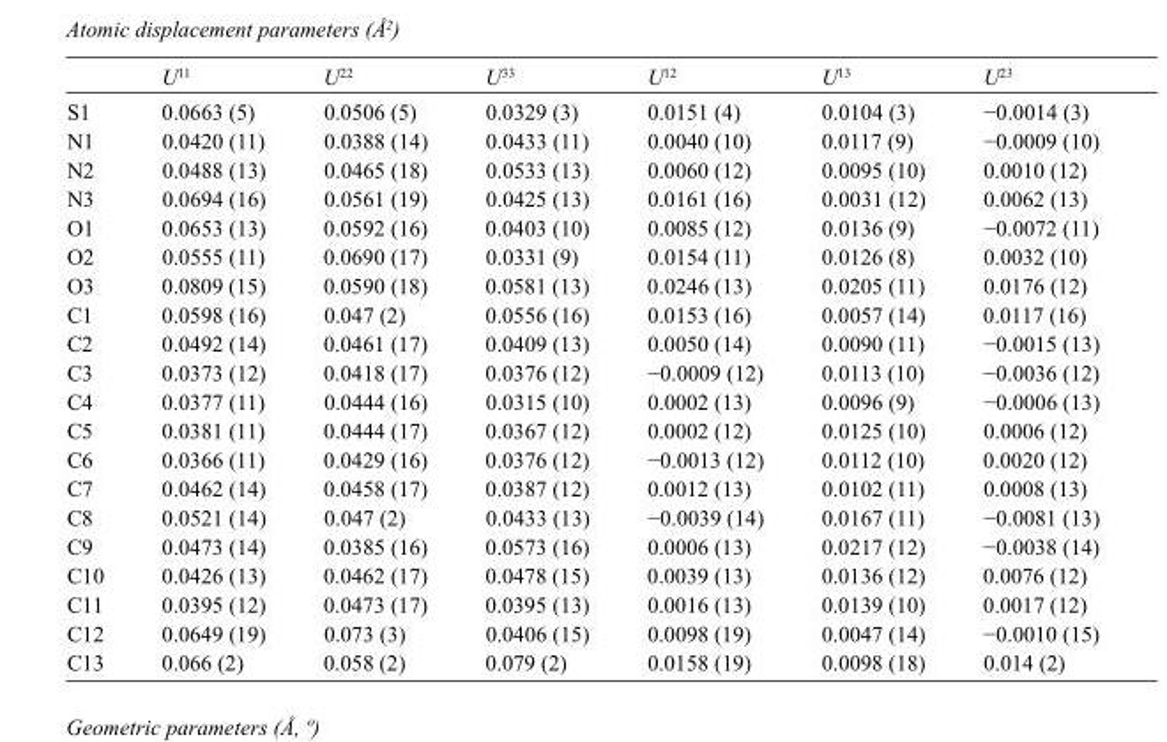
<table><thead><tr><td></td><td>U<sup>11</sup></td><td>U<sup>22</sup></td><td>U<sup>33</sup></td><td>U<sup>12</sup></td><td>U<sup>13</sup></td><td>U<sup>23</sup></td></tr></thead><tbody><tr><td>S1</td><td>0.0663 (5)</td><td>0.0506 (5)</td><td>0.0329 (3)</td><td>0.0151 (4)</td><td>0.0104 (3)</td><td>−0.0014 (3)</td></tr><tr><td>N1</td><td>0.0420 (11)</td><td>0.0388 (14)</td><td>0.0433 (11)</td><td>0.0040 (10)</td><td>0.0117 (9)</td><td>−0.0009 (10)</td></tr><tr><td>N2</td><td>0.0488 (13)</td><td>0.0465 (18)</td><td>0.0533 (13)</td><td>0.0060 (12)</td><td>0.0095 (10)</td><td>0.0010 (12)</td></tr><tr><td>N3</td><td>0.0694 (16)</td><td>0.0561 (19)</td><td>0.0425 (13)</td><td>0.0161 (16)</td><td>0.0031 (12)</td><td>0.0062 (13)</td></tr><tr><td>O1</td><td>0.0653 (13)</td><td>0.0592 (16)</td><td>0.0403 (10)</td><td>0.0085 (12)</td><td>0.0136 (9)</td><td>−0.0072 (11)</td></tr><tr><td>O2</td><td>0.0555 (11)</td><td>0.0690 (17)</td><td>0.0331 (9)</td><td>0.0154 (11)</td><td>0.0126 (8)</td><td>0.0032 (10)</td></tr><tr><td>O3</td><td>0.0809 (15)</td><td>0.0590 (18)</td><td>0.0581 (13)</td><td>0.0246 (13)</td><td>0.0205 (11)</td><td>0.0176 (12)</td></tr><tr><td>C1</td><td>0.0598 (16)</td><td>0.047 (2)</td><td>0.0556 (16)</td><td>0.0153 (16)</td><td>0.0057 (14)</td><td>0.0117 (16)</td></tr><tr><td>C2</td><td>0.0492 (14)</td><td>0.0461 (17)</td><td>0.0409 (13)</td><td>0.0050 (14)</td><td>0.0090 (11)</td><td>−0.0015 (13)</td></tr><tr><td>C3</td><td>0.0373 (12)</td><td>0.0418 (17)</td><td>0.0376 (12)</td><td>−0.0009 (12)</td><td>0.0113 (10)</td><td>−0.0036 (12)</td></tr><tr><td>C4</td><td>0.0377 (11)</td><td>0.0444 (16)</td><td>0.0315 (10)</td><td>0.0002 (13)</td><td>0.0096 (9)</td><td>−0.0006 (13)</td></tr><tr><td>C5</td><td>0.0381 (11)</td><td>0.0444 (17)</td><td>0.0367 (12)</td><td>0.0002 (12)</td><td>0.0125 (10)</td><td>0.0006 (12)</td></tr><tr><td>C6</td><td>0.0366 (11)</td><td>0.0429 (16)</td><td>0.0376 (12)</td><td>−0.0013 (12)</td><td>0.0112 (10)</td><td>0.0020 (12)</td></tr><tr><td>C7</td><td>0.0462 (14)</td><td>0.0458 (17)</td><td>0.0387 (12)</td><td>0.0012 (13)</td><td>0.0102 (11)</td><td>0.0008 (13)</td></tr><tr><td>C8</td><td>0.0521 (14)</td><td>0.047 (2)</td><td>0.0433 (13)</td><td>−0.0039 (14)</td><td>0.0167 (11)</td><td>−0.0081 (13)</td></tr><tr><td>C9</td><td>0.0473 (14)</td><td>0.0385 (16)</td><td>0.0573 (16)</td><td>0.0006 (13)</td><td>0.0217 (12)</td><td>−0.0038 (14)</td></tr><tr><td>C10</td><td>0.0426 (13)</td><td>0.0462 (17)</td><td>0.0478 (15)</td><td>0.0039 (13)</td><td>0.0136 (12)</td><td>0.0076 (12)</td></tr><tr><td>C11</td><td>0.0395 (12)</td><td>0.0473 (17)</td><td>0.0395 (13)</td><td>0.0016 (13)</td><td>0.0139 (10)</td><td>0.0017 (12)</td></tr><tr><td>C12</td><td>0.0649 (19)</td><td>0.073 (3)</td><td>0.0406 (15)</td><td>0.0098 (19)</td><td>0.0047 (14)</td><td>−0.0010 (15)</td></tr><tr><td>C13</td><td>0.066 (2)</td><td>0.058 (2)</td><td>0.079 (2)</td><td>0.0158 (19)</td><td>0.0098 (18)</td><td>0.014 (2)</td></tr></tbody></table>